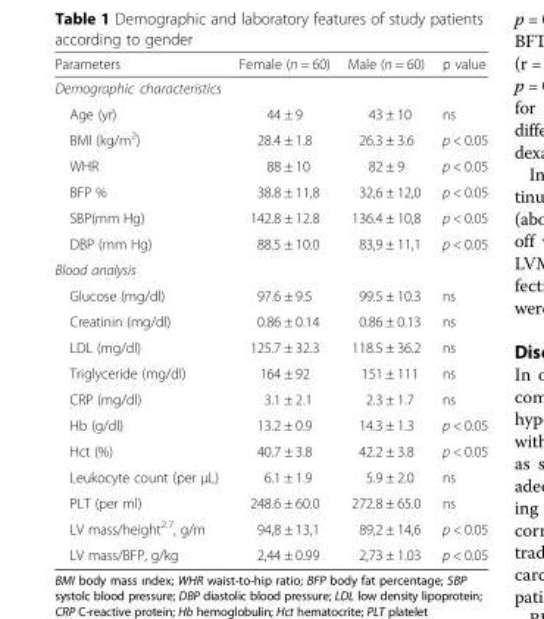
<table><thead><tr><td>Parameters</td><td>Female (n = 60)</td><td>Male (n = 60)</td><td>p value</td></tr></thead><tbody><tr><td colspan="4">Demographic characteristics</td></tr><tr><td>Age (yr)</td><td>44 ± 9</td><td>43 ± 10</td><td>ns</td></tr><tr><td>BMI (kg/m<sup>2</sup>)</td><td>28.4 ± 1.8</td><td>26.3 ± 3.6</td><td>p &lt; 0.05</td></tr><tr><td>WHR</td><td>88 ± 10</td><td>82 ± 9</td><td>p &lt; 0.05</td></tr><tr><td>BFP %</td><td>38.8 ± 11,8</td><td>32,6 ± 12,0</td><td>p &lt; 0.05</td></tr><tr><td>SBP(mm Hg)</td><td>142.8 ± 12.8</td><td>136.4 ± 10,8</td><td>p &lt; 0.05</td></tr><tr><td>DBP (mm Hg)</td><td>88.5 ± 10.0</td><td>83,9 ± 11,1</td><td>p &lt; 0.05</td></tr><tr><td colspan="4">Blood analysis</td></tr><tr><td>Glucose (mg/dl)</td><td>97.6 ± 9.5</td><td>99.5 ± 10.3</td><td>ns</td></tr><tr><td>Creatinin (mg/dl)</td><td>0.86 ± 0.14</td><td>0.86 ± 0.13</td><td>ns</td></tr><tr><td>LDL (mg/dl)</td><td>125.7 ± 32.3</td><td>118.5 ± 36.2</td><td>ns</td></tr><tr><td>Triglyceride (mg/dl)</td><td>164 ± 92</td><td>151 ± 111</td><td>ns</td></tr><tr><td>CRP (mg/dl)</td><td>3.1 ± 2.1</td><td>2.3 ± 1.7</td><td>ns</td></tr><tr><td>Hb (g/dl)</td><td>13.2 ± 0.9</td><td>14.3 ± 1.3</td><td>p &lt; 0.05</td></tr><tr><td>Hct (%)</td><td>40.7 ± 3.8</td><td>42.2 ± 3.8</td><td>p &lt; 0.05</td></tr><tr><td>Leukocyte count (per μL)</td><td>6.1 ± 1.9</td><td>5.9 ± 2.0</td><td>ns</td></tr><tr><td>PLT (per ml)</td><td>248.6 ± 60.0</td><td>272.8 ± 65.0</td><td>ns</td></tr><tr><td>LV mass/height<sup>2.7</sup>, g/m</td><td>94,8 ± 13,1</td><td>89,2 ± 14,6</td><td>p &lt; 0.05</td></tr><tr><td>LV mass/BFP, g/kg</td><td>2,44 ± 0.99</td><td>2,73 ± 1.03</td><td>p &lt; 0.05</td></tr></tbody></table>